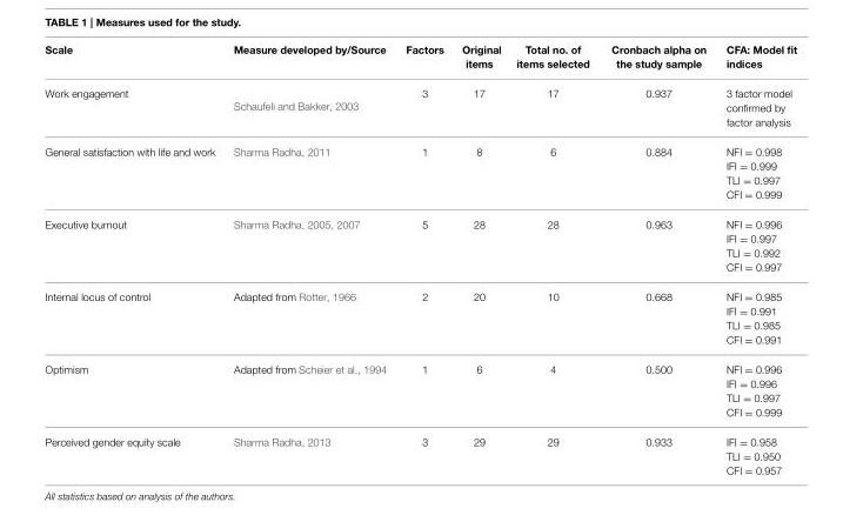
<table><thead><tr><td>Scale</td><td>Measure developed by/Source</td><td>Factors</td><td>Original items</td><td>Total no. of items selected</td><td>Cronbach alpha on the study sample</td><td>CFA: Model fit indices</td></tr></thead><tbody><tr><td>Work engagement</td><td>Schaufeli and Bakker, 2003</td><td>3</td><td>17</td><td>17</td><td>0.937</td><td>3 factor model confirmed by factor analysis</td></tr><tr><td>General satisfaction with life and work</td><td>Sharma Radha, 2011</td><td>1</td><td>8</td><td>6</td><td>0.884</td><td>NFI = 0.998 IFI = 0.999 TLI = 0.997 CFI = 0.999</td></tr><tr><td>Executive burnout</td><td>Sharma Radha, 2005, 2007</td><td>5</td><td>28</td><td>28</td><td>0.963</td><td>NFI = 0.996 IFI = 0.997 TLI = 0.992 CFI = 0.997</td></tr><tr><td>Internal locus of control</td><td>Adapted from Rotter, 1966</td><td>2</td><td>20</td><td>10</td><td>0.668</td><td>NFI = 0.985 IFI = 0.991 TLI = 0.985 CFI = 0.991</td></tr><tr><td>Optimism</td><td>Adapted from Scheier et al., 1994</td><td>1</td><td>6</td><td>4</td><td>0.500</td><td>NFI = 0.996 IFI = 0.996 TLI = 0.997 CFI = 0.999</td></tr><tr><td>Perceived gender equity scale</td><td>Sharma Radha, 2013</td><td>3</td><td>29</td><td>29</td><td>0.933</td><td>IFI = 0.958 TLI = 0.950 CFI = 0.957</td></tr></tbody></table>